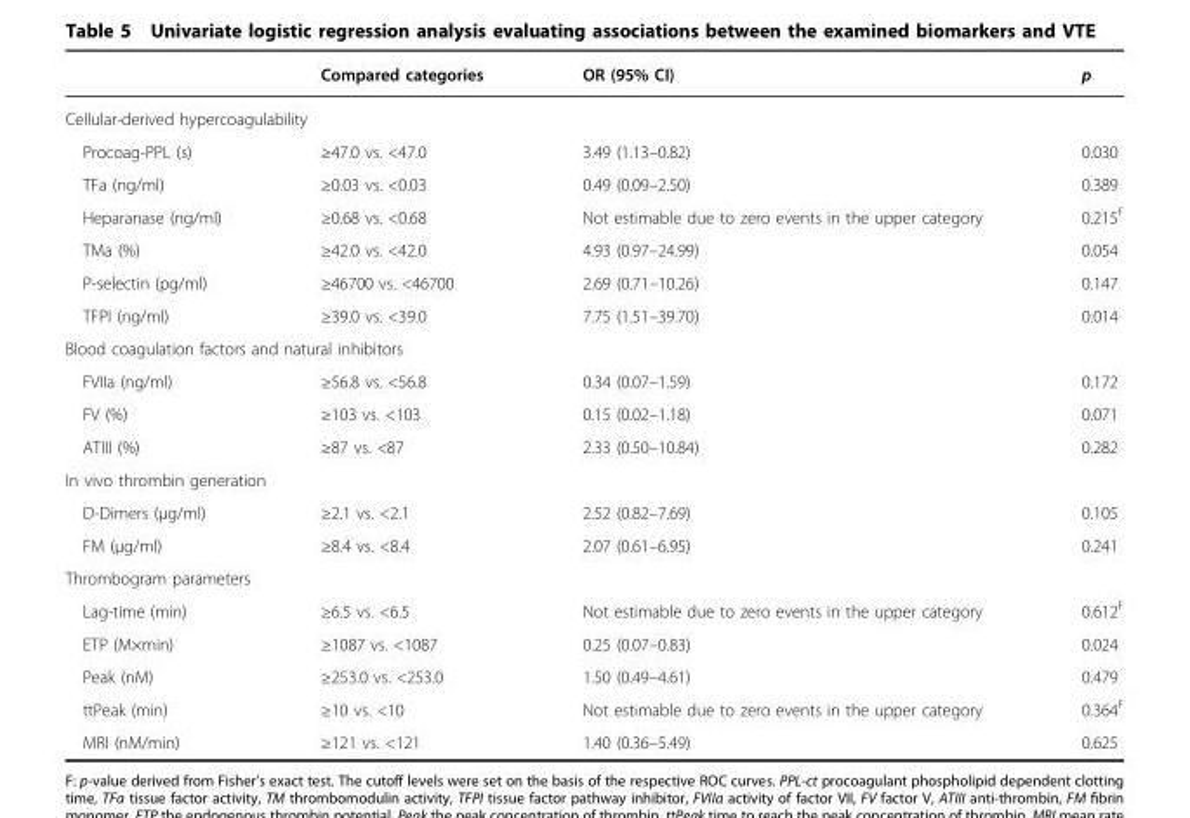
<table><thead><tr><td></td><td>Compared categories</td><td>OR (95% CI)</td><td>p</td></tr></thead><tbody><tr><td colspan="4">Cellular-derived hypercoagulability</td></tr><tr><td>Procoag-PPL (s)</td><td>≥47.0 vs. &lt;47.0</td><td>3.49 (1.13–0.82)</td><td>0.030</td></tr><tr><td>TFa (ng/ml)</td><td>≥0.03 vs. &lt;0.03</td><td>0.49 (0.09–2.50)</td><td>0.389</td></tr><tr><td>Heparanase (ng/ml)</td><td>≥0.68 vs. &lt;0.68</td><td>Not estimable due to zero events in the upper category</td><td>0.215<sup>F</sup></td></tr><tr><td>TMa (%)</td><td>≥42.0 vs. &lt;42.0</td><td>4.93 (0.97–24.99)</td><td>0.054</td></tr><tr><td>P-selectin (pg/ml)</td><td>≥46700 vs. &lt;46700</td><td>2.69 (0.71–10.26)</td><td>0.147</td></tr><tr><td>TFPI (ng/ml)</td><td>≥39.0 vs. &lt;39.0</td><td>7.75 (1.51–39.70)</td><td>0.014</td></tr><tr><td colspan="4">Blood coagulation factors and natural inhibitors</td></tr><tr><td>FVIIa (ng/ml)</td><td>≥56.8 vs. &lt;56.8</td><td>0.34 (0.07–1.59)</td><td>0.172</td></tr><tr><td>FV (%)</td><td>≥103 vs. &lt;103</td><td>0.15 (0.02–1.18)</td><td>0.071</td></tr><tr><td>ATIII (%)</td><td>≥87 vs. &lt;87</td><td>2.33 (0.50–10.84)</td><td>0.282</td></tr><tr><td colspan="4">In vivo thrombin generation</td></tr><tr><td>D-Dimers (μg/ml)</td><td>≥2.1 vs. &lt;2.1</td><td>2.52 (0.82–7.69)</td><td>0.105</td></tr><tr><td>FM (μg/ml)</td><td>≥8.4 vs. &lt;8.4</td><td>2.07 (0.61–6.95)</td><td>0.241</td></tr><tr><td colspan="4">Thrombogram parameters</td></tr><tr><td>Lag-time (min)</td><td>≥6.5 vs. &lt;6.5</td><td>Not estimable due to zero events in the upper category</td><td>0.612<sup>F</sup></td></tr><tr><td>ETP (M×min)</td><td>≥1087 vs. &lt;1087</td><td>0.25 (0.07–0.83)</td><td>0.024</td></tr><tr><td>Peak (nM)</td><td>≥253.0 vs. &lt;253.0</td><td>1.50 (0.49–4.61)</td><td>0.479</td></tr><tr><td>ttPeak (min)</td><td>≥10 vs. &lt;10</td><td>Not estimable due to zero events in the upper category</td><td>0.364<sup>F</sup></td></tr><tr><td>MRI (nM/min)</td><td>≥121 vs. &lt;121</td><td>1.40 (0.36–5.49)</td><td>0.625</td></tr></tbody></table>